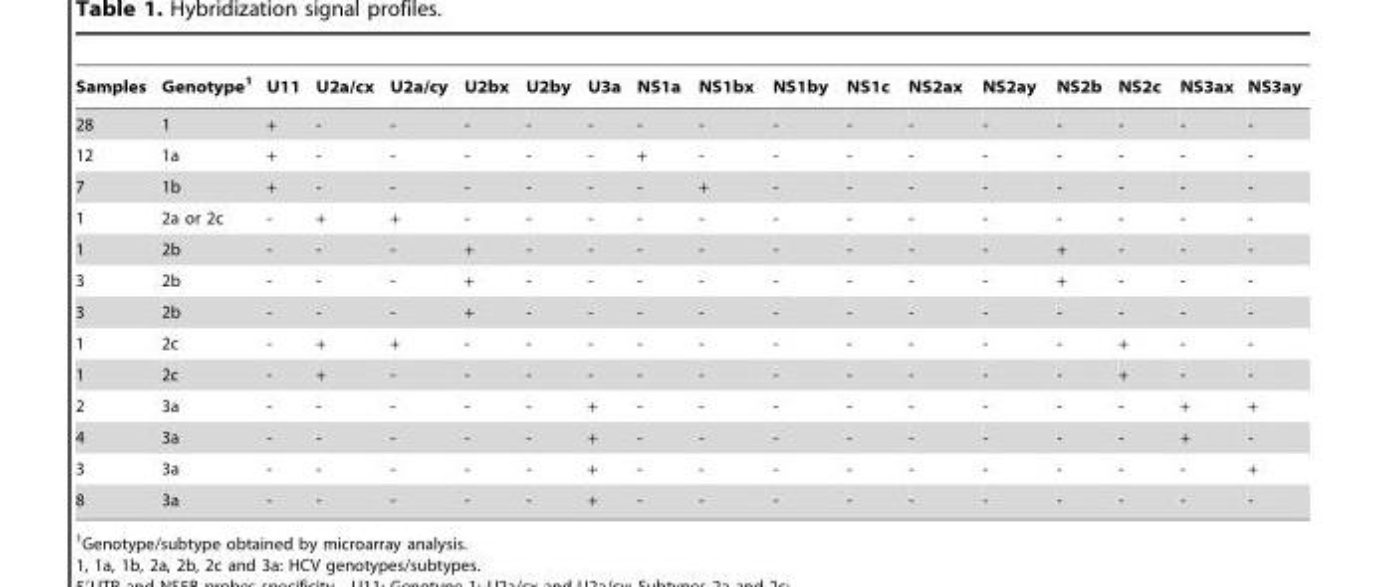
<table><thead><tr><td>Samples</td><td>Genotype<sup>1</sup></td><td>U11</td><td>U2a/cx</td><td>U2a/cy</td><td>U2bx</td><td>U2by</td><td>U3a</td><td>NS1a</td><td>NS1bx</td><td>NS1by</td><td>NS1c</td><td>NS2ax</td><td>NS2ay</td><td>NS2b</td><td>NS2c</td><td>NS3ax</td><td>NS3ay</td></tr></thead><tbody><tr><td>28</td><td>1</td><td>+</td><td>-</td><td>-</td><td>-</td><td>-</td><td>-</td><td>-</td><td>-</td><td>-</td><td>-</td><td>-</td><td>-</td><td>-</td><td>-</td><td>-</td><td>-</td></tr><tr><td>12</td><td>1a</td><td>+</td><td>-</td><td>-</td><td>-</td><td>-</td><td>-</td><td>+</td><td>-</td><td>-</td><td>-</td><td>-</td><td>-</td><td>-</td><td>-</td><td>-</td><td>-</td></tr><tr><td>7</td><td>1b</td><td>+</td><td>-</td><td>-</td><td>-</td><td>-</td><td>-</td><td>-</td><td>+</td><td>-</td><td>-</td><td>-</td><td>-</td><td>-</td><td>-</td><td>-</td><td>-</td></tr><tr><td>1</td><td>2a or 2c</td><td>-</td><td>+</td><td>+</td><td>-</td><td>-</td><td>-</td><td>-</td><td>-</td><td>-</td><td>-</td><td>-</td><td>-</td><td>-</td><td>-</td><td>-</td><td>-</td></tr><tr><td>1</td><td>2b</td><td>-</td><td>-</td><td>-</td><td>+</td><td>-</td><td>-</td><td>-</td><td>-</td><td>-</td><td>-</td><td>-</td><td>-</td><td>+</td><td>-</td><td>-</td><td>-</td></tr><tr><td>3</td><td>2b</td><td>-</td><td>-</td><td>-</td><td>+</td><td>-</td><td>-</td><td>-</td><td>-</td><td>-</td><td>-</td><td>-</td><td>-</td><td>+</td><td>-</td><td>-</td><td>-</td></tr><tr><td>3</td><td>2b</td><td>-</td><td>-</td><td>-</td><td>+</td><td>-</td><td>-</td><td>-</td><td>-</td><td>-</td><td>-</td><td>-</td><td>-</td><td>-</td><td>-</td><td>-</td><td>-</td></tr><tr><td>1</td><td>2c</td><td>-</td><td>+</td><td>+</td><td>-</td><td>-</td><td>-</td><td>-</td><td>-</td><td>-</td><td>-</td><td>-</td><td>-</td><td>-</td><td>+</td><td>-</td><td>-</td></tr><tr><td>1</td><td>2c</td><td>-</td><td>+</td><td>-</td><td>-</td><td>-</td><td>-</td><td>-</td><td>-</td><td>-</td><td>-</td><td>-</td><td>-</td><td>-</td><td>+</td><td>-</td><td>-</td></tr><tr><td>2</td><td>3a</td><td>-</td><td>-</td><td>-</td><td>-</td><td>-</td><td>+</td><td>-</td><td>-</td><td>-</td><td>-</td><td>-</td><td>-</td><td>-</td><td>-</td><td>+</td><td>+</td></tr><tr><td>4</td><td>3a</td><td>-</td><td>-</td><td>-</td><td>-</td><td>-</td><td>+</td><td>-</td><td>-</td><td>-</td><td>-</td><td>-</td><td>-</td><td>-</td><td>-</td><td>+</td><td>-</td></tr><tr><td>3</td><td>3a</td><td>-</td><td>-</td><td>-</td><td>-</td><td>-</td><td>+</td><td>-</td><td>-</td><td>-</td><td>-</td><td>-</td><td>-</td><td>-</td><td>-</td><td>-</td><td>+</td></tr><tr><td>8</td><td>3a</td><td>-</td><td>-</td><td>-</td><td>-</td><td>-</td><td>+</td><td>-</td><td>-</td><td>-</td><td>-</td><td>-</td><td>-</td><td>-</td><td>-</td><td>-</td><td>-</td></tr></tbody></table>